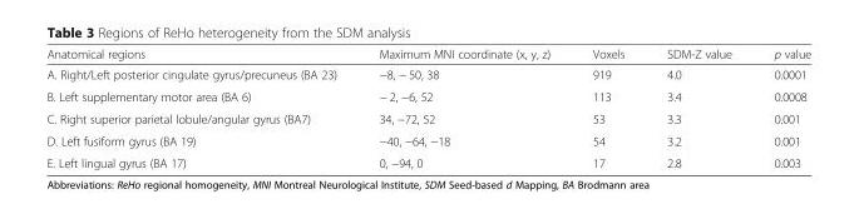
<table><thead><tr><td>Anatomical regions</td><td>Maximum MNI coordinate (x, y, z)</td><td>Voxels</td><td>SDM-Z value</td><td>p value</td></tr></thead><tbody><tr><td>A. Right/Left posterior cingulate gyrus/precuneus (BA 23)</td><td>−8, − 50, 38</td><td>919</td><td>4.0</td><td>0.0001</td></tr><tr><td>B. Left supplementary motor area (BA 6)</td><td>− 2, −6, 52</td><td>113</td><td>3.4</td><td>0.0008</td></tr><tr><td>C. Right superior parietal lobule/angular gyrus (BA7)</td><td>34, −72, 52</td><td>53</td><td>3.3</td><td>0.001</td></tr><tr><td>D. Left fusiform gyrus (BA 19)</td><td>−40, −64, −18</td><td>54</td><td>3.2</td><td>0.001</td></tr><tr><td>E. Left lingual gyrus (BA 17)</td><td>0, −94, 0</td><td>17</td><td>2.8</td><td>0.003</td></tr></tbody></table>